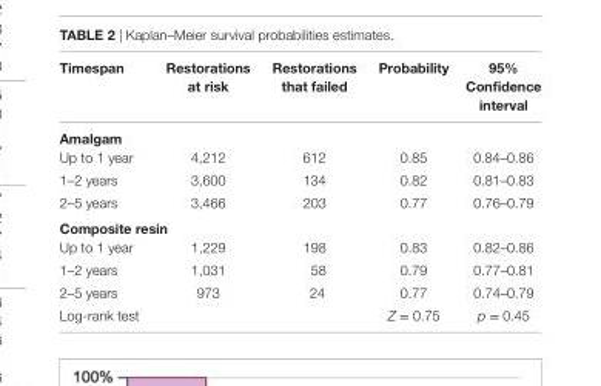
<table><thead><tr><td>Timespan</td><td>restorations at risk</td><td>restorations that failed</td><td>Probability</td><td>95% confidence interval</td></tr></thead><tbody><tr><td colspan="5">amalgam</td></tr><tr><td>Up to 1 year</td><td>4,212</td><td>612</td><td>0.85</td><td>0.84–0.86</td></tr><tr><td>1–2 years</td><td>3,600</td><td>134</td><td>0.82</td><td>0.81–0.83</td></tr><tr><td>2–5 years</td><td>3,466</td><td>203</td><td>0.77</td><td>0.76–0.79</td></tr><tr><td colspan="5">composite resin</td></tr><tr><td>Up to 1 year</td><td>1,229</td><td>198</td><td>0.83</td><td>0.82–0.86</td></tr><tr><td>1–2 years</td><td>1,031</td><td>58</td><td>0.79</td><td>0.77–0.81</td></tr><tr><td>2–5 years</td><td>973</td><td>24</td><td>0.77</td><td>0.74–0.79</td></tr><tr><td>Log-rank test</td><td></td><td></td><td>Z = 0.75</td><td>p = 0.45</td></tr></tbody></table>